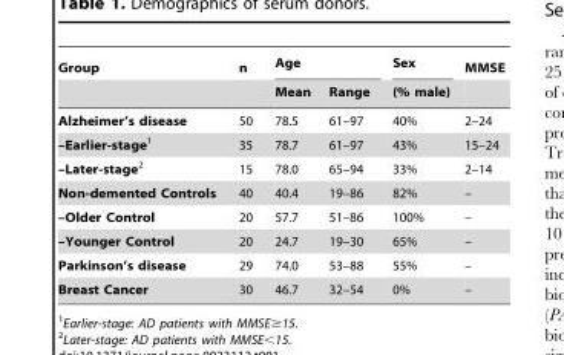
<table><thead><tr><td rowspan="2">Group</td><td rowspan="2">n</td><td colspan="2">Age</td><td rowspan="2">Sex (% male)</td><td rowspan="2">MMSE</td></tr><tr><td>Mean</td><td>Range</td></tr></thead><tbody><tr><td>Alzheimer’s disease</td><td>50</td><td>78.5</td><td>61–97</td><td>40%</td><td>2–24</td></tr><tr><td>–Earlier-stage1</td><td>35</td><td>78.7</td><td>61–97</td><td>43%</td><td>15–24</td></tr><tr><td>–Later-stage2</td><td>15</td><td>78.0</td><td>65–94</td><td>33%</td><td>2–14</td></tr><tr><td>Non-demented Controls</td><td>40</td><td>40.4</td><td>19–86</td><td>82%</td><td>–</td></tr><tr><td>–Older Control</td><td>20</td><td>57.7</td><td>51–86</td><td>100%</td><td>–</td></tr><tr><td>–Younger Control</td><td>20</td><td>24.7</td><td>19–30</td><td>65%</td><td>–</td></tr><tr><td>Parkinson’s disease</td><td>29</td><td>74.0</td><td>53–88</td><td>55%</td><td>–</td></tr><tr><td>Breast Cancer</td><td>30</td><td>46.7</td><td>32–54</td><td>0%</td><td>–</td></tr></tbody></table>